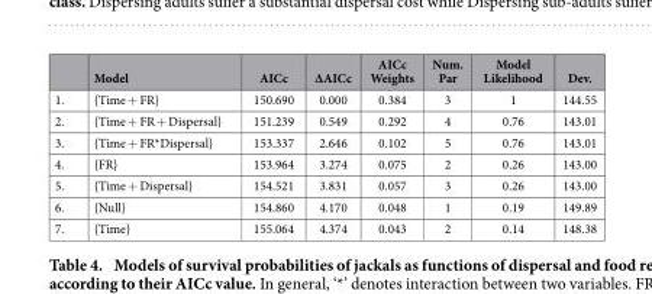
<table><thead><tr><td></td><td>Model</td><td>AICc</td><td>ΔAICc</td><td>AICc Weights</td><td>Num. Par</td><td>Model Likelihood</td><td>Dev.</td></tr></thead><tbody><tr><td>1.</td><td>{Time + FR}</td><td>150.690</td><td>0.000</td><td>0.384</td><td>3</td><td>1</td><td>144.55</td></tr><tr><td>2.</td><td>{Time + FR + Dispersal}</td><td>151.239</td><td>0.549</td><td>0.292</td><td>4</td><td>0.76</td><td>143.01</td></tr><tr><td>3.</td><td>{Time + FR*Dispersal}</td><td>153.337</td><td>2.646</td><td>0.102</td><td>5</td><td>0.76</td><td>143.01</td></tr><tr><td>4.</td><td>{FR}</td><td>153.964</td><td>3.274</td><td>0.075</td><td>2</td><td>0.26</td><td>143.00</td></tr><tr><td>5.</td><td>{Time + Dispersal}</td><td>154.521</td><td>3.831</td><td>0.057</td><td>3</td><td>0.26</td><td>143.00</td></tr><tr><td>6.</td><td>{Null}</td><td>154.860</td><td>4.170</td><td>0.048</td><td>1</td><td>0.19</td><td>149.89</td></tr><tr><td>7.</td><td>{Time}</td><td>155.064</td><td>4.374</td><td>0.043</td><td>2</td><td>0.14</td><td>148.38</td></tr></tbody></table>